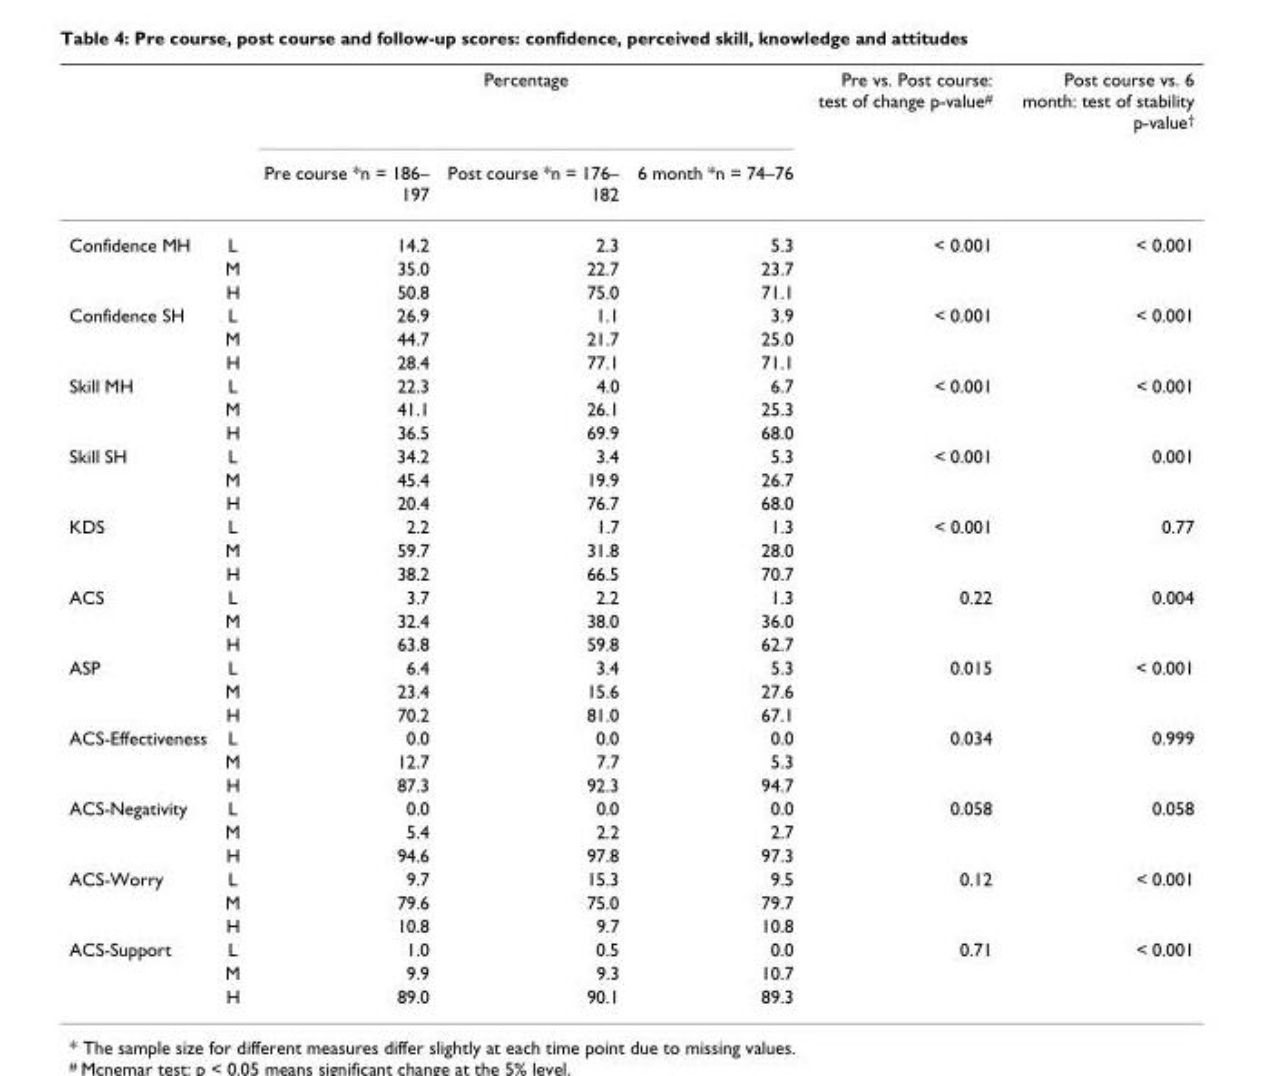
<table><thead><tr><td rowspan="2"></td><td rowspan="2"></td><td colspan="3">Percentage</td><td rowspan="2">Pre vs. Post course: test of change p-value<sup>#</sup></td><td rowspan="2">Post course vs. 6 month: test of stability p-value<sup>†</sup></td></tr><tr><td>Pre course *n = 186– 197</td><td>Post course *n = 176– 182</td><td>6 month *n = 74–76</td></tr></thead><tbody><tr><td rowspan="3">Confidence MH</td><td>L</td><td>14.2</td><td>2.3</td><td>5.3</td><td>&lt; 0.001</td><td>&lt; 0.001</td></tr><tr><td>M</td><td>35.0</td><td>22.7</td><td>23.7</td><td></td><td></td></tr><tr><td>H</td><td>50.8</td><td>75.0</td><td>71.1</td><td></td><td></td></tr><tr><td rowspan="3">Confidence SH</td><td>L</td><td>26.9</td><td>1.1</td><td>3.9</td><td>&lt; 0.001</td><td>&lt; 0.001</td></tr><tr><td>M</td><td>44.7</td><td>21.7</td><td>25.0</td><td></td><td></td></tr><tr><td>H</td><td>28.4</td><td>77.1</td><td>71.1</td><td></td><td></td></tr><tr><td rowspan="3">Skill MH</td><td>L</td><td>22.3</td><td>4.0</td><td>6.7</td><td>&lt; 0.001</td><td>&lt; 0.001</td></tr><tr><td>M</td><td>41.1</td><td>26.1</td><td>25.3</td><td></td><td></td></tr><tr><td>H</td><td>36.5</td><td>69.9</td><td>68.0</td><td></td><td></td></tr><tr><td rowspan="3">Skill SH</td><td>L</td><td>34.2</td><td>3.4</td><td>5.3</td><td>&lt; 0.001</td><td>0.001</td></tr><tr><td>M</td><td>45.4</td><td>19.9</td><td>26.7</td><td></td><td></td></tr><tr><td>H</td><td>20.4</td><td>76.7</td><td>68.0</td><td></td><td></td></tr><tr><td rowspan="3">KDS</td><td>L</td><td>2.2</td><td>1.7</td><td>1.3</td><td>&lt; 0.001</td><td>0.77</td></tr><tr><td>M</td><td>59.7</td><td>31.8</td><td>28.0</td><td></td><td></td></tr><tr><td>H</td><td>38.2</td><td>66.5</td><td>70.7</td><td></td><td></td></tr><tr><td rowspan="3">ACS</td><td>L</td><td>3.7</td><td>2.2</td><td>1.3</td><td>0.22</td><td>0.004</td></tr><tr><td>M</td><td>32.4</td><td>38.0</td><td>36.0</td><td></td><td></td></tr><tr><td>H</td><td>63.8</td><td>59.8</td><td>62.7</td><td></td><td></td></tr><tr><td rowspan="3">ASP</td><td>L</td><td>6.4</td><td>3.4</td><td>5.3</td><td>0.015</td><td>&lt; 0.001</td></tr><tr><td>M</td><td>23.4</td><td>15.6</td><td>27.6</td><td></td><td></td></tr><tr><td>H</td><td>70.2</td><td>81.0</td><td>67.1</td><td></td><td></td></tr><tr><td rowspan="3">ACS-Effectiveness</td><td>L</td><td>0.0</td><td>0.0</td><td>0.0</td><td>0.034</td><td>0.999</td></tr><tr><td>M</td><td>12.7</td><td>7.7</td><td>5.3</td><td></td><td></td></tr><tr><td>H</td><td>87.3</td><td>92.3</td><td>94.7</td><td></td><td></td></tr><tr><td rowspan="3">ACS-Negativity</td><td>L</td><td>0.0</td><td>0.0</td><td>0.0</td><td>0.058</td><td>0.058</td></tr><tr><td>M</td><td>5.4</td><td>2.2</td><td>2.7</td><td></td><td></td></tr><tr><td>H</td><td>94.6</td><td>97.8</td><td>97.3</td><td></td><td></td></tr><tr><td rowspan="3">ACS-Worry</td><td>L</td><td>9.7</td><td>15.3</td><td>9.5</td><td>0.12</td><td>&lt; 0.001</td></tr><tr><td>M</td><td>79.6</td><td>75.0</td><td>79.7</td><td></td><td></td></tr><tr><td>H</td><td>10.8</td><td>9.7</td><td>10.8</td><td></td><td></td></tr><tr><td rowspan="3">ACS-Support</td><td>L</td><td>1.0</td><td>0.5</td><td>0.0</td><td>0.71</td><td>&lt; 0.001</td></tr><tr><td>M</td><td>9.9</td><td>9.3</td><td>10.7</td><td></td><td></td></tr><tr><td>H</td><td>89.0</td><td>90.1</td><td>89.3</td><td></td><td></td></tr></tbody></table>